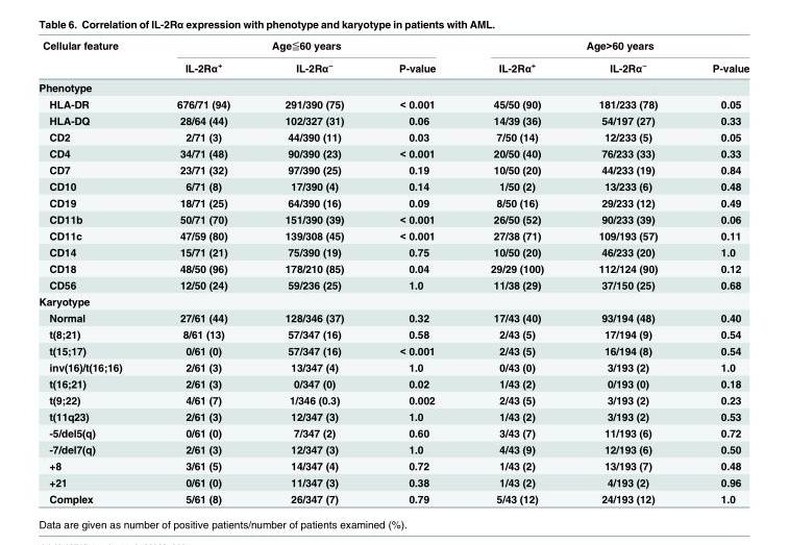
<table><thead><tr><td rowspan="2">Cellular feature</td><td colspan="3">Age≦60 years</td><td colspan="3">Age&gt;60 years</td></tr><tr><td>IL-2Rα<sup>+</sup></td><td>IL-2Rα<sup>−</sup></td><td>P-value</td><td>IL-2Rα<sup>+</sup></td><td>IL-2Rα<sup>−</sup></td><td>P-value</td></tr></thead><tbody><tr><td colspan="7">Phenotype</td></tr><tr><td>HLA-DR</td><td>676/71 (94)</td><td>291/390 (75)</td><td>&lt; 0.001</td><td>45/50 (90)</td><td>181/233 (78)</td><td>0.05</td></tr><tr><td>HLA-DQ</td><td>28/64 (44)</td><td>102/327 (31)</td><td>0.06</td><td>14/39 (36)</td><td>54/197 (27)</td><td>0.33</td></tr><tr><td>CD2</td><td>2/71 (3)</td><td>44/390 (11)</td><td>0.03</td><td>7/50 (14)</td><td>12/233 (5)</td><td>0.05</td></tr><tr><td>CD4</td><td>34/71 (48)</td><td>90/390 (23)</td><td>&lt; 0.001</td><td>20/50 (40)</td><td>76/233 (33)</td><td>0.33</td></tr><tr><td>CD7</td><td>23/71 (32)</td><td>97/390 (25)</td><td>0.19</td><td>10/50 (20)</td><td>44/233 (19)</td><td>0.84</td></tr><tr><td>CD10</td><td>6/71 (8)</td><td>17/390 (4)</td><td>0.14</td><td>1/50 (2)</td><td>13/233 (6)</td><td>0.48</td></tr><tr><td>CD19</td><td>18/71 (25)</td><td>64/390 (16)</td><td>0.09</td><td>8/50 (16)</td><td>29/233 (12)</td><td>0.49</td></tr><tr><td>CD11b</td><td>50/71 (70)</td><td>151/390 (39)</td><td>&lt; 0.001</td><td>26/50 (52)</td><td>90/233 (39)</td><td>0.06</td></tr><tr><td>CD11c</td><td>47/59 (80)</td><td>139/308 (45)</td><td>&lt; 0.001</td><td>27/38 (71)</td><td>109/193 (57)</td><td>0.11</td></tr><tr><td>CD14</td><td>15/71 (21)</td><td>75/390 (19)</td><td>0.75</td><td>10/50 (20)</td><td>46/233 (20)</td><td>1.0</td></tr><tr><td>CD18</td><td>48/50 (96)</td><td>178/210 (85)</td><td>0.04</td><td>29/29 (100)</td><td>112/124 (90)</td><td>0.12</td></tr><tr><td>CD56</td><td>12/50 (24)</td><td>59/236 (25)</td><td>1.0</td><td>11/38 (29)</td><td>37/150 (25)</td><td>0.68</td></tr><tr><td colspan="7">Karyotype</td></tr><tr><td>Normal</td><td>27/61 (44)</td><td>128/346 (37)</td><td>0.32</td><td>17/43 (40)</td><td>93/194 (48)</td><td>0.40</td></tr><tr><td>t(8;21)</td><td>8/61 (13)</td><td>57/347 (16)</td><td>0.58</td><td>2/43 (5)</td><td>17/194 (9)</td><td>0.54</td></tr><tr><td>t(15;17)</td><td>0/61 (0)</td><td>57/347 (16)</td><td>&lt; 0.001</td><td>2/43 (5)</td><td>16/194 (8)</td><td>0.54</td></tr><tr><td>inv(16)/t(16;16)</td><td>2/61 (3)</td><td>13/347 (4)</td><td>1.0</td><td>0/43 (0)</td><td>3/193 (2)</td><td>1.0</td></tr><tr><td>t(16;21)</td><td>2/61 (3)</td><td>0/347 (0)</td><td>0.02</td><td>1/43 (2)</td><td>0/193 (0)</td><td>0.18</td></tr><tr><td>t(9;22)</td><td>4/61 (7)</td><td>1/346 (0.3)</td><td>0.002</td><td>2/43 (5)</td><td>3/193 (2)</td><td>0.23</td></tr><tr><td>t(11q23)</td><td>2/61 (3)</td><td>12/347 (3)</td><td>1.0</td><td>1/43 (2)</td><td>3/193 (2)</td><td>0.53</td></tr><tr><td>-5/del5(q)</td><td>0/61 (0)</td><td>7/347 (2)</td><td>0.60</td><td>3/43 (7)</td><td>11/193 (6)</td><td>0.72</td></tr><tr><td>-7/del7(q)</td><td>2/61 (3)</td><td>12/347 (3)</td><td>1.0</td><td>4/43 (9)</td><td>12/193 (6)</td><td>0.50</td></tr><tr><td>+8</td><td>3/61 (5)</td><td>14/347 (4)</td><td>0.72</td><td>1/43 (2)</td><td>13/193 (7)</td><td>0.48</td></tr><tr><td>+21</td><td>0/61 (0)</td><td>11/347 (3)</td><td>0.38</td><td>1/43 (2)</td><td>4/193 (2)</td><td>0.96</td></tr><tr><td>Complex</td><td>5/61 (8)</td><td>26/347 (7)</td><td>0.79</td><td>5/43 (12)</td><td>24/193 (12)</td><td>1.0</td></tr></tbody></table>